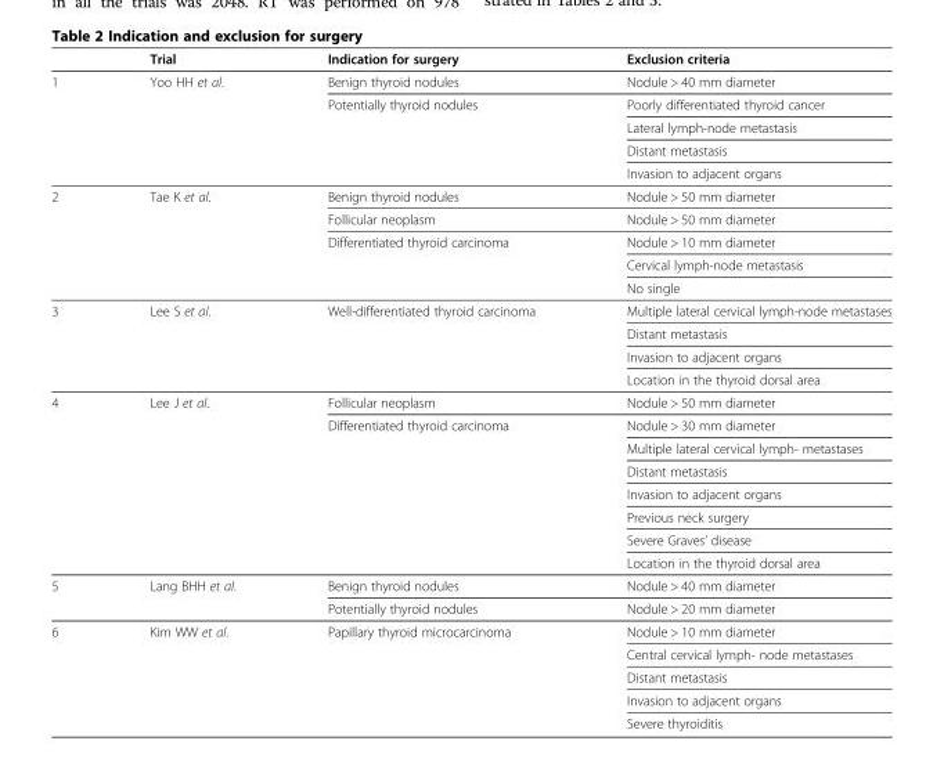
<table><thead><tr><td></td><td>Trial</td><td>Indication for surgery</td><td>Exclusion criteria</td></tr></thead><tbody><tr><td rowspan="5">1</td><td rowspan="5">Yoo HH et al.</td><td>Benign thyroid nodules</td><td>Nodule &gt; 40 mm diameter</td></tr><tr><td rowspan="4">Potentially thyroid nodules</td><td>Poorly differentiated thyroid cancer</td></tr><tr><td>Lateral lymph-node metastasis</td></tr><tr><td>Distant metastasis</td></tr><tr><td>Invasion to adjacent organs</td></tr><tr><td rowspan="5">2</td><td rowspan="5">Tae K et al.</td><td>Benign thyroid nodules</td><td>Nodule &gt; 50 mm diameter</td></tr><tr><td>Follicular neoplasm</td><td>Nodule &gt; 50 mm diameter</td></tr><tr><td rowspan="3">Differentiated thyroid carcinoma</td><td>Nodule &gt; 10 mm diameter</td></tr><tr><td>Cervical lymph-node metastasis</td></tr><tr><td>No single</td></tr><tr><td rowspan="4">3</td><td rowspan="4">Lee S et al.</td><td rowspan="4">Well-differentiated thyroid carcinoma</td><td>Multiple lateral cervical lymph-node metastases</td></tr><tr><td>Distant metastasis</td></tr><tr><td>Invasion to adjacent organs</td></tr><tr><td>Location in the thyroid dorsal area</td></tr><tr><td rowspan="8">4</td><td rowspan="8">Lee J et al.</td><td>Follicular neoplasm</td><td>Nodule &gt; 50 mm diameter</td></tr><tr><td rowspan="7">Differentiated thyroid carcinoma</td><td>Nodule &gt; 30 mm diameter</td></tr><tr><td>Multiple lateral cervical lymph- metastases</td></tr><tr><td>Distant metastasis</td></tr><tr><td>Invasion to adjacent organs</td></tr><tr><td>Previous neck surgery</td></tr><tr><td>Severe Graves’ disease</td></tr><tr><td>Location in the thyroid dorsal area</td></tr><tr><td rowspan="2">5</td><td rowspan="2">Lang BHH et al.</td><td>Benign thyroid nodules</td><td>Nodule &gt; 40 mm diameter</td></tr><tr><td>Potentially thyroid nodules</td><td>Nodule &gt; 20 mm diameter</td></tr><tr><td rowspan="5">6</td><td rowspan="5">Kim WW et al.</td><td rowspan="5">Papillary thyroid microcarcinoma</td><td>Nodule &gt; 10 mm diameter</td></tr><tr><td>Central cervical lymph- node metastases</td></tr><tr><td>Distant metastasis</td></tr><tr><td>Invasion to adjacent organs</td></tr><tr><td>Severe thyroiditis</td></tr></tbody></table>